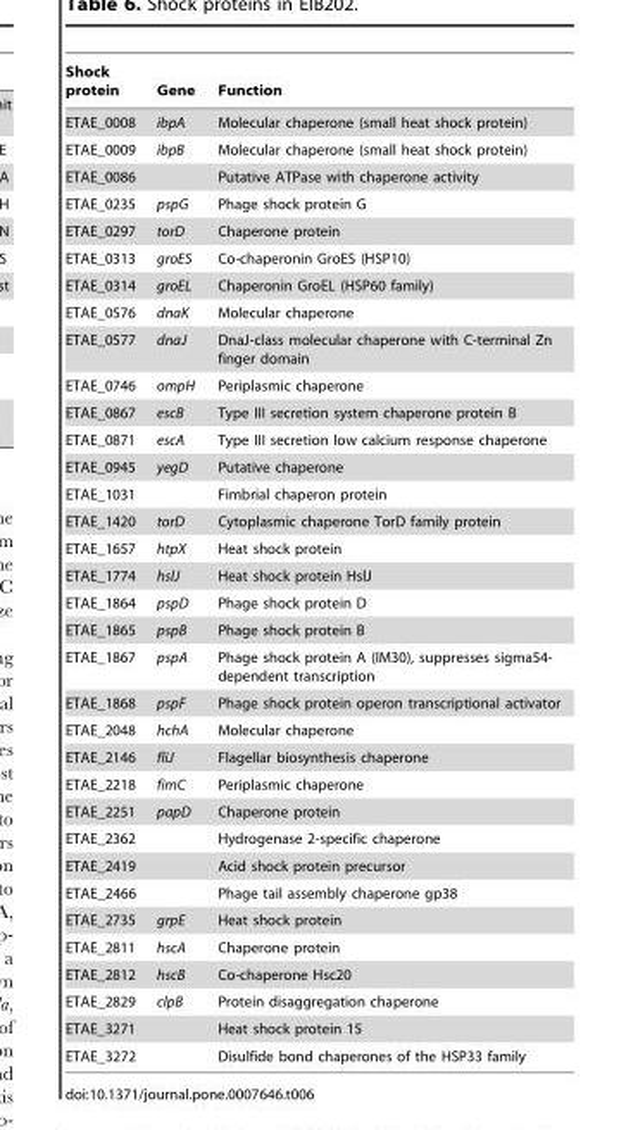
<table><thead><tr><td>Shock protein</td><td>Gene</td><td>Function</td></tr></thead><tbody><tr><td>ETAE_0008</td><td>ibpA</td><td>Molecular chaperone (small heat shock protein)</td></tr><tr><td>ETAE_0009</td><td>ibpB</td><td>Molecular chaperone (small heat shock protein)</td></tr><tr><td>ETAE_0086</td><td></td><td>Putative ATPase with chaperone activity</td></tr><tr><td>ETAE_0235</td><td>pspG</td><td>Phage shock protein G</td></tr><tr><td>ETAE_0297</td><td>torD</td><td>Chaperone protein</td></tr><tr><td>ETAE_0313</td><td>groES</td><td>Co-chaperonin GroES (HSP10)</td></tr><tr><td>ETAE_0314</td><td>groEL</td><td>Chaperonin GroEL (HSP60 family)</td></tr><tr><td>ETAE_0576</td><td>dnaK</td><td>Molecular chaperone</td></tr><tr><td>ETAE_0577</td><td>dnaJ</td><td>DnaJ-class molecular chaperone with C-terminal Zn finger domain</td></tr><tr><td>ETAE_0746</td><td>ompH</td><td>Periplasmic chaperone</td></tr><tr><td>ETAE_0867</td><td>escB</td><td>Type III secretion system chaperone protein B</td></tr><tr><td>ETAE_0871</td><td>escA</td><td>Type III secretion low calcium response chaperone</td></tr><tr><td>ETAE_0945</td><td>yegD</td><td>Putative chaperone</td></tr><tr><td>ETAE_1031</td><td></td><td>Fimbrial chaperon protein</td></tr><tr><td>ETAE_1420</td><td>torD</td><td>Cytoplasmic chaperone TorD family protein</td></tr><tr><td>ETAE_1657</td><td>htpX</td><td>Heat shock protein</td></tr><tr><td>ETAE_1774</td><td>hslJ</td><td>Heat shock protein HslJ</td></tr><tr><td>ETAE_1864</td><td>pspD</td><td>Phage shock protein D</td></tr><tr><td>ETAE_1865</td><td>pspB</td><td>Phage shock protein B</td></tr><tr><td>ETAE_1867</td><td>pspA</td><td>Phage shock protein A (IM30), suppresses sigma54- dependent transcription</td></tr><tr><td>ETAE_1868</td><td>pspF</td><td>Phage shock protein operon transcriptional activator</td></tr><tr><td>ETAE_2048</td><td>hchA</td><td>Molecular chaperone</td></tr><tr><td>ETAE_2146</td><td>fliJ</td><td>Flagellar biosynthesis chaperone</td></tr><tr><td>ETAE_2218</td><td>fimC</td><td>Periplasmic chaperone</td></tr><tr><td>ETAE_2251</td><td>papD</td><td>Chaperone protein</td></tr><tr><td>ETAE_2362</td><td></td><td>Hydrogenase 2-specific chaperone</td></tr><tr><td>ETAE_2419</td><td></td><td>Acid shock protein precursor</td></tr><tr><td>ETAE_2466</td><td></td><td>Phage tail assembly chaperone gp38</td></tr><tr><td>ETAE_2735</td><td>grpE</td><td>Heat shock protein</td></tr><tr><td>ETAE_2811</td><td>hscA</td><td>Chaperone protein</td></tr><tr><td>ETAE_2812</td><td>hscB</td><td>Co-chaperone Hsc20</td></tr><tr><td>ETAE_2829</td><td>clpB</td><td>Protein disaggregation chaperone</td></tr><tr><td>ETAE_3271</td><td></td><td>Heat shock protein 15</td></tr><tr><td>ETAE_3272</td><td></td><td>Disulfide bond chaperones of the HSP33 family</td></tr></tbody></table>